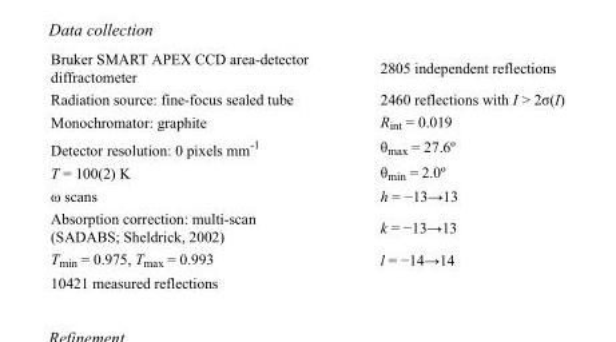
<table><tbody><tr><td>Bruker SMART APEX CCD area-detector diffractometer</td><td>2805 independent reflections</td></tr><tr><td>Radiation source: fine-focus sealed tube</td><td>2460 reflections with I &gt; 2σ(I)</td></tr><tr><td>Monochromator: graphite</td><td>R<sub>int</sub> = 0.019</td></tr><tr><td>Detector resolution: 0 pixels mm<sup>-1</sup></td><td>θ<sub>max</sub> = 27.6º</td></tr><tr><td>T = 100(2) K</td><td>θ<sub>min</sub> = 2.0º</td></tr><tr><td>ω scans</td><td>h = −13→13</td></tr><tr><td>Absorption correction: multi-scan (SADABS; Sheldrick, 2002)</td><td>k = −13→13</td></tr><tr><td>T<sub>min</sub> = 0.975, T<sub>max</sub> = 0.993</td><td>l = −14→14</td></tr><tr><td>10421 measured reflections</td><td></td></tr></tbody></table>